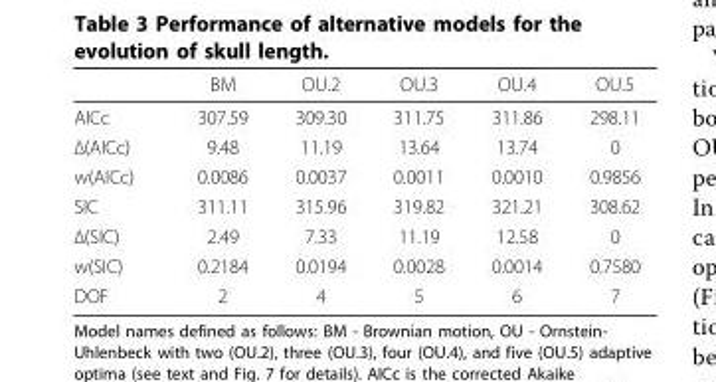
<table><thead><tr><td></td><td>BM</td><td>OU.2</td><td>OU.3</td><td>OU.4</td><td>OU.5</td></tr></thead><tbody><tr><td>AICc</td><td>307.59</td><td>309.30</td><td>311.75</td><td>311.86</td><td>298.11</td></tr><tr><td>Δ(AICc)</td><td>9.48</td><td>11.19</td><td>13.64</td><td>13.74</td><td>0</td></tr><tr><td>w(AICc)</td><td>0.0086</td><td>0.0037</td><td>0.0011</td><td>0.0010</td><td>0.9856</td></tr><tr><td>SIC</td><td>311.11</td><td>315.96</td><td>319.82</td><td>321.21</td><td>308.62</td></tr><tr><td>Δ(SIC)</td><td>2.49</td><td>7.33</td><td>11.19</td><td>12.58</td><td>0</td></tr><tr><td>w(SIC)</td><td>0.2184</td><td>0.0194</td><td>0.0028</td><td>0.0014</td><td>0.7580</td></tr><tr><td>DOF</td><td>2</td><td>4</td><td>5</td><td>6</td><td>7</td></tr></tbody></table>